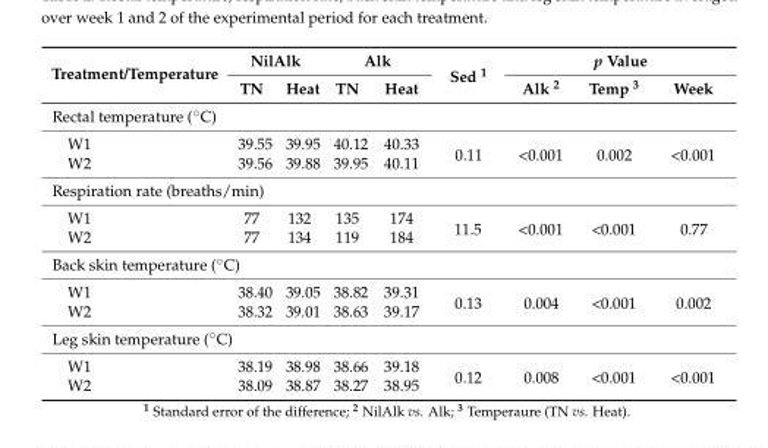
<table><thead><tr><td rowspan="2">Treatment/Temperature</td><td colspan="2">NilAlk</td><td colspan="2">Alk</td><td rowspan="2">Sed <sup>1</sup></td><td colspan="3">p Value</td></tr><tr><td>TN</td><td>Heat</td><td>TN</td><td>Heat</td><td>Alk <sup>2</sup></td><td>Temp <sup>3</sup></td><td>Week</td></tr></thead><tbody><tr><td colspan="9">Rectal temperature (˝C)</td></tr><tr><td>W1</td><td>39.55</td><td>39.95</td><td>40.12</td><td>40.33</td><td rowspan="2">0.11</td><td rowspan="2">&lt;0.001</td><td rowspan="2">0.002</td><td rowspan="2">&lt;0.001</td></tr><tr><td>W2</td><td>39.56</td><td>39.88</td><td>39.95</td><td>40.11</td></tr><tr><td colspan="9">Respiration rate (breaths/min)</td></tr><tr><td>W1</td><td>77</td><td>132</td><td>135</td><td>174</td><td rowspan="2">11.5</td><td rowspan="2">&lt;0.001</td><td rowspan="2">&lt;0.001</td><td rowspan="2">0.77</td></tr><tr><td>W2</td><td>77</td><td>134</td><td>119</td><td>184</td></tr><tr><td colspan="9">Back skin temperature (˝C)</td></tr><tr><td>W1</td><td>38.40</td><td>39.05</td><td>38.82</td><td>39.31</td><td rowspan="2">0.13</td><td rowspan="2">0.004</td><td rowspan="2">&lt;0.001</td><td rowspan="2">0.002</td></tr><tr><td>W2</td><td>38.32</td><td>39.01</td><td>38.63</td><td>39.17</td></tr><tr><td colspan="9">Leg skin temperature (˝C)</td></tr><tr><td>W1</td><td>38.19</td><td>38.98</td><td>38.66</td><td>39.18</td><td rowspan="2">0.12</td><td rowspan="2">0.008</td><td rowspan="2">&lt;0.001</td><td rowspan="2">&lt;0.001</td></tr><tr><td>W2</td><td>38.09</td><td>38.87</td><td>38.27</td><td>38.95</td></tr></tbody></table>